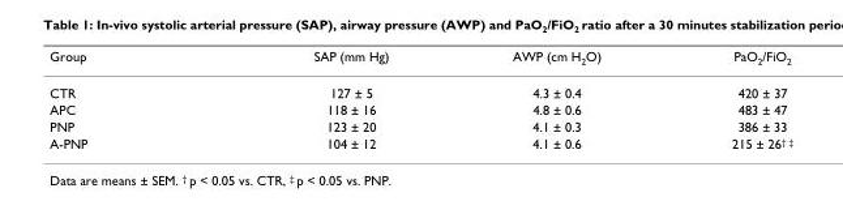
<table><thead><tr><td>Group</td><td>SAP (mm Hg)</td><td>AWP (cm H<sub>2</sub>O)</td><td>PaO<sub>2</sub>/FiO<sub>2</sub></td></tr></thead><tbody><tr><td>CTR</td><td>127 ± 5</td><td>4.3 ± 0.4</td><td>420 ± 37</td></tr><tr><td>APC</td><td>118 ± 16</td><td>4.8 ± 0.6</td><td>483 ± 47</td></tr><tr><td>PNP</td><td>123 ± 20</td><td>4.1 ± 0.3</td><td>386 ± 33</td></tr><tr><td>A-PNP</td><td>104 ± 12</td><td>4.1 ± 0.6</td><td>215 ± 26<sup>† ‡</sup></td></tr></tbody></table>